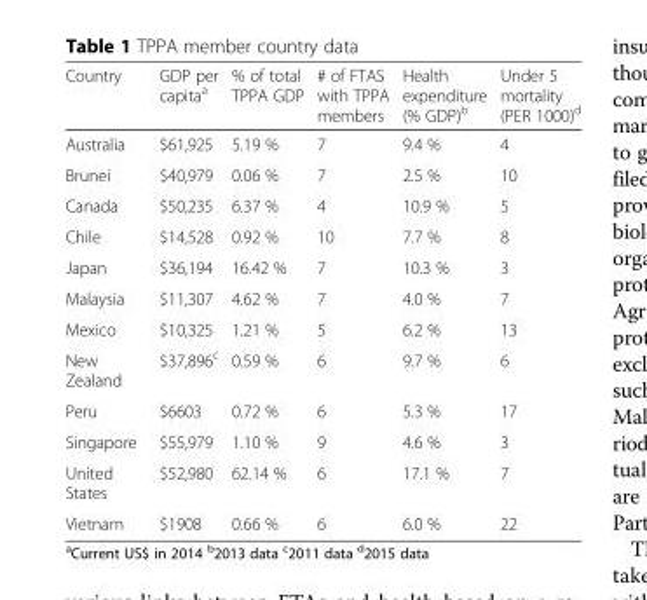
<table><thead><tr><td>Country</td><td>GDP per capita<sup>a</sup></td><td>% of total TPPA GDP</td><td># of FTAS with TPPA members</td><td>Health expenditure (% GDP)<sup>b</sup></td><td>Under 5 mortality (PER 1000)<sup>d</sup></td></tr></thead><tbody><tr><td>Australia</td><td>$61,925</td><td>5.19 %</td><td>7</td><td>9.4 %</td><td>4</td></tr><tr><td>Brunei</td><td>$40,979</td><td>0.06 %</td><td>7</td><td>2.5 %</td><td>10</td></tr><tr><td>Canada</td><td>$50,235</td><td>6.37 %</td><td>4</td><td>10.9 %</td><td>5</td></tr><tr><td>Chile</td><td>$14,528</td><td>0.92 %</td><td>10</td><td>7.7 %</td><td>8</td></tr><tr><td>Japan</td><td>$36,194</td><td>16.42 %</td><td>7</td><td>10.3 %</td><td>3</td></tr><tr><td>Malaysia</td><td>$11,307</td><td>4.62 %</td><td>7</td><td>4.0 %</td><td>7</td></tr><tr><td>Mexico</td><td>$10,325</td><td>1.21 %</td><td>5</td><td>6.2 %</td><td>13</td></tr><tr><td>New Zealand</td><td>$37,896<sup>c</sup></td><td>0.59 %</td><td>6</td><td>9.7 %</td><td>6</td></tr><tr><td>Peru</td><td>$6603</td><td>0.72 %</td><td>6</td><td>5.3 %</td><td>17</td></tr><tr><td>Singapore</td><td>$55,979</td><td>1.10 %</td><td>9</td><td>4.6 %</td><td>3</td></tr><tr><td>United States</td><td>$52,980</td><td>62.14 %</td><td>6</td><td>17.1 %</td><td>7</td></tr><tr><td>Vietnam</td><td>$1908</td><td>0.66 %</td><td>6</td><td>6.0 %</td><td>22</td></tr></tbody></table>